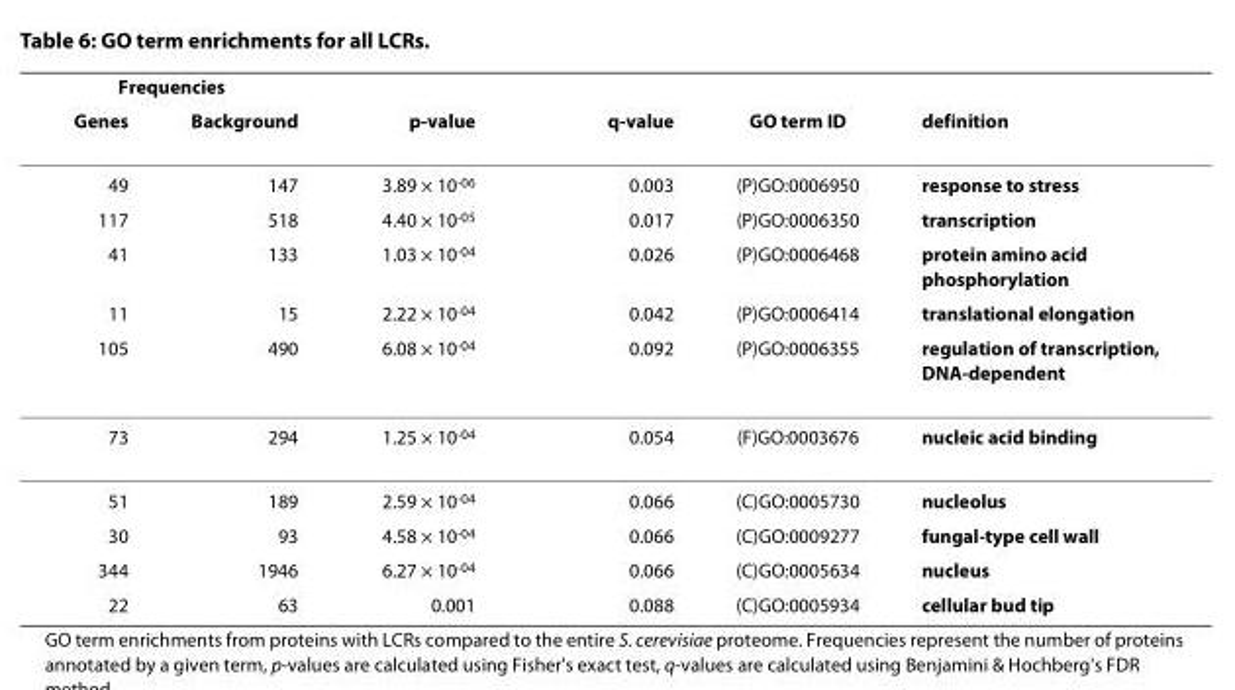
<table><thead><tr><td colspan="2">Frequencies</td><td rowspan="2">p-value</td><td rowspan="2">q-value</td><td rowspan="2">GO term ID</td><td rowspan="2">definition</td></tr><tr><td>Genes</td><td>Background</td></tr></thead><tbody><tr><td>49</td><td>147</td><td>3.89 × 10<sup>-06</sup></td><td>0.003</td><td>(P)GO:0006950</td><td>response to stress</td></tr><tr><td>117</td><td>518</td><td>4.40 × 10<sup>-05</sup></td><td>0.017</td><td>(P)GO:0006350</td><td>transcription</td></tr><tr><td>41</td><td>133</td><td>1.03 × 10<sup>-04</sup></td><td>0.026</td><td>(P)GO:0006468</td><td>protein amino acid phosphorylation</td></tr><tr><td>11</td><td>15</td><td>2.22 × 10<sup>-04</sup></td><td>0.042</td><td>(P)GO:0006414</td><td>translational elongation</td></tr><tr><td>105</td><td>490</td><td>6.08 × 10<sup>-04</sup></td><td>0.092</td><td>(P)GO:0006355</td><td>regulation of transcription, DNA-dependent</td></tr><tr><td>73</td><td>294</td><td>1.25 × 10<sup>-04</sup></td><td>0.054</td><td>(F)GO:0003676</td><td>nucleic acid binding</td></tr><tr><td>51</td><td>189</td><td>2.59 × 10<sup>-04</sup></td><td>0.066</td><td>(C)GO:0005730</td><td>nucleolus</td></tr><tr><td>30</td><td>93</td><td>4.58 × 10<sup>-04</sup></td><td>0.066</td><td>(C)GO:0009277</td><td>fungal-type cell wall</td></tr><tr><td>344</td><td>1946</td><td>6.27 × 10<sup>-04</sup></td><td>0.066</td><td>(C)GO:0005634</td><td>nucleus</td></tr><tr><td>22</td><td>63</td><td>0.001</td><td>0.088</td><td>(C)GO:0005934</td><td>cellular bud tip</td></tr></tbody></table>